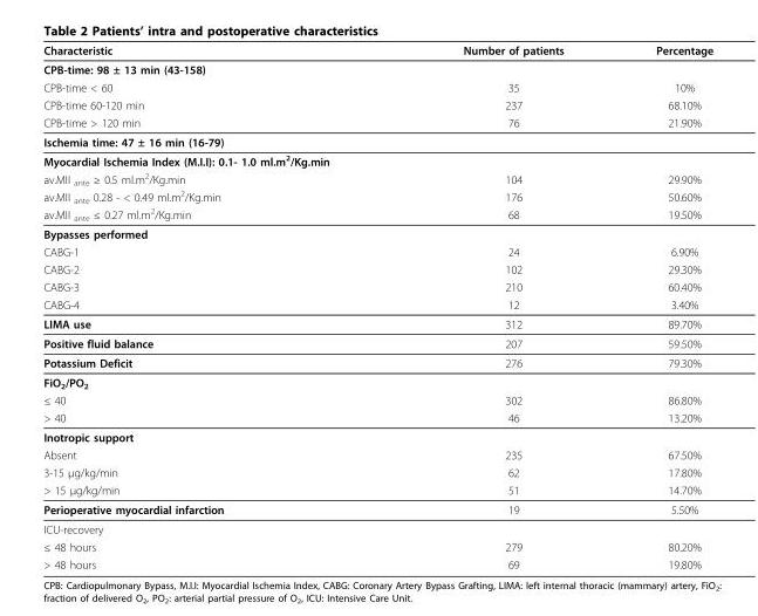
<table><thead><tr><td>Characteristic</td><td>Number of patients</td><td>Percentage</td></tr></thead><tbody><tr><td colspan="3">CPB-time: 98 ± 13 min (43-158)</td></tr><tr><td>CPB-time &lt; 60</td><td>35</td><td>10%</td></tr><tr><td>CPB-time 60-120 min</td><td>237</td><td>68.10%</td></tr><tr><td>CPB-time &gt; 120 min</td><td>76</td><td>21.90%</td></tr><tr><td colspan="3">Ischemia time: 47 ± 16 min (16-79)</td></tr><tr><td colspan="3">Myocardial Ischemia Index (M.I.I): 0.1- 1.0 ml.m<sup>2</sup>/Kg.min</td></tr><tr><td>av.MII <sub>ante</sub> ≥ 0.5 ml.m<sup>2</sup>/Kg.min</td><td>104</td><td>29.90%</td></tr><tr><td>av.MII <sub>ante</sub> 0.28 - &lt; 0.49 ml.m<sup>2</sup>/Kg.min</td><td>176</td><td>50.60%</td></tr><tr><td>av.MII <sub>ante</sub> ≤ 0.27 ml.m<sup>2</sup>/Kg.min</td><td>68</td><td>19.50%</td></tr><tr><td colspan="3">Bypasses performed</td></tr><tr><td>CABG-1</td><td>24</td><td>6.90%</td></tr><tr><td>CABG-2</td><td>102</td><td>29.30%</td></tr><tr><td>CABG-3</td><td>210</td><td>60.40%</td></tr><tr><td>CABG-4</td><td>12</td><td>3.40%</td></tr><tr><td>LIMA use</td><td>312</td><td>89.70%</td></tr><tr><td>Positive fluid balance</td><td>207</td><td>59.50%</td></tr><tr><td>Potassium Deficit</td><td>276</td><td>79.30%</td></tr><tr><td colspan="3">FiO<sub>2</sub>/PO<sub>2</sub></td></tr><tr><td>≤ 40</td><td>302</td><td>86.80%</td></tr><tr><td>&gt; 40</td><td>46</td><td>13.20%</td></tr><tr><td colspan="3">Inotropic support</td></tr><tr><td>Absent</td><td>235</td><td>67.50%</td></tr><tr><td>3-15 μg/kg/min</td><td>62</td><td>17.80%</td></tr><tr><td>&gt; 15 μg/kg/min</td><td>51</td><td>14.70%</td></tr><tr><td>Perioperative myocardial infarction</td><td>19</td><td>5.50%</td></tr><tr><td colspan="3">ICU-recovery</td></tr><tr><td>≤ 48 hours</td><td>279</td><td>80.20%</td></tr><tr><td>&gt; 48 hours</td><td>69</td><td>19.80%</td></tr></tbody></table>